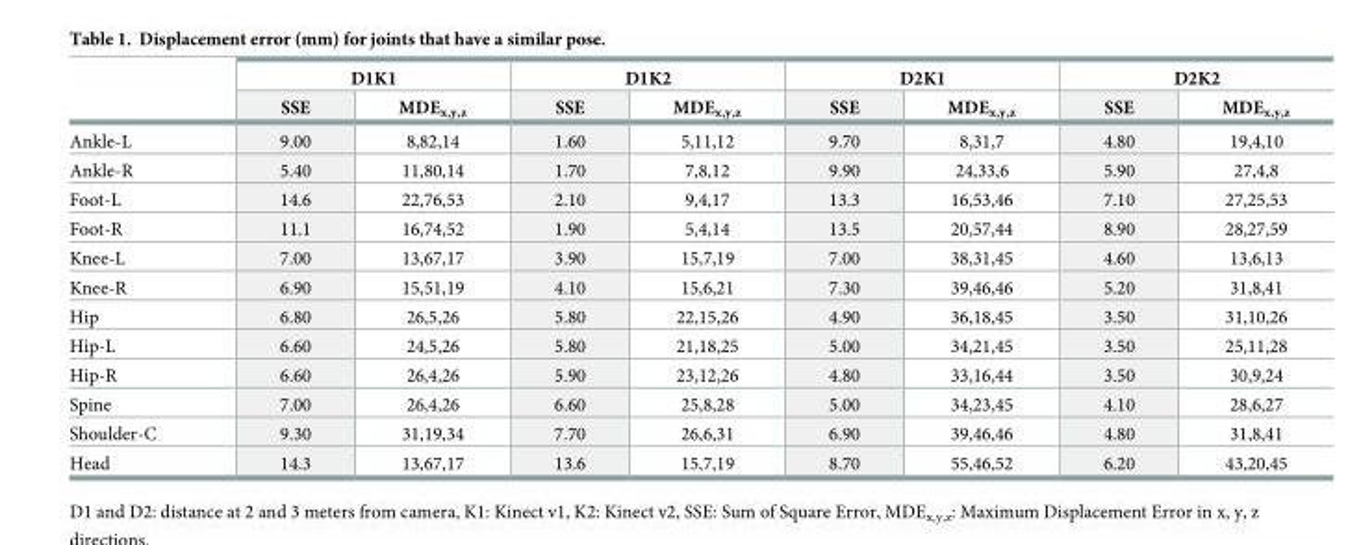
<table><thead><tr><td rowspan="2"></td><td colspan="2">D1K1</td><td colspan="2">D1K2</td><td colspan="2">D2K1</td><td colspan="2">D2K2</td></tr><tr><td>SSE</td><td>MDE<sub>x,y,z</sub></td><td>SSE</td><td>MDE<sub>x,y,z</sub></td><td>SSE</td><td>MDE<sub>x,y,z</sub></td><td>SSE</td><td>MDE<sub>x,y,z</sub></td></tr></thead><tbody><tr><td>Ankle-L</td><td>9.00</td><td>8,82,14</td><td>1.60</td><td>5,11,12</td><td>9.70</td><td>8,31,7</td><td>4.80</td><td>19,4,10</td></tr><tr><td>Ankle-R</td><td>5.40</td><td>11,80,14</td><td>1.70</td><td>7,8,12</td><td>9.90</td><td>24,33,6</td><td>5.90</td><td>27,4,8</td></tr><tr><td>Foot-L</td><td>14.6</td><td>22,76,53</td><td>2.10</td><td>9,4,17</td><td>13.3</td><td>16,53,46</td><td>7.10</td><td>27,25,53</td></tr><tr><td>Foot-R</td><td>11.1</td><td>16,74,52</td><td>1.90</td><td>5,4,14</td><td>13.5</td><td>20,57,44</td><td>8.90</td><td>28,27,59</td></tr><tr><td>Knee-L</td><td>7.00</td><td>13,67,17</td><td>3.90</td><td>15,7,19</td><td>7.00</td><td>38,31,45</td><td>4.60</td><td>13,6,13</td></tr><tr><td>Knee-R</td><td>6.90</td><td>15,51,19</td><td>4.10</td><td>15,6,21</td><td>7.30</td><td>39,46,46</td><td>5.20</td><td>31,8,41</td></tr><tr><td>Hip</td><td>6.80</td><td>26,5,26</td><td>5.80</td><td>22,15,26</td><td>4.90</td><td>36,18,45</td><td>3.50</td><td>31,10,26</td></tr><tr><td>Hip-L</td><td>6.60</td><td>24,5,26</td><td>5.80</td><td>21,18,25</td><td>5.00</td><td>34,21,45</td><td>3.50</td><td>25,11,28</td></tr><tr><td>Hip-R</td><td>6.60</td><td>26,4,26</td><td>5.90</td><td>23,12,26</td><td>4.80</td><td>33,16,44</td><td>3.50</td><td>30,9,24</td></tr><tr><td>Spine</td><td>7.00</td><td>26,4,26</td><td>6.60</td><td>25,8,28</td><td>5.00</td><td>34,23,45</td><td>4.10</td><td>28,6,27</td></tr><tr><td>Shoulder-C</td><td>9.30</td><td>31,19,34</td><td>7.70</td><td>26,6,31</td><td>6.90</td><td>39,46,46</td><td>4.80</td><td>31,8,41</td></tr><tr><td>Head</td><td>14.3</td><td>13,67,17</td><td>13.6</td><td>15,7,19</td><td>8.70</td><td>55,46,52</td><td>6.20</td><td>43,20,45</td></tr></tbody></table>